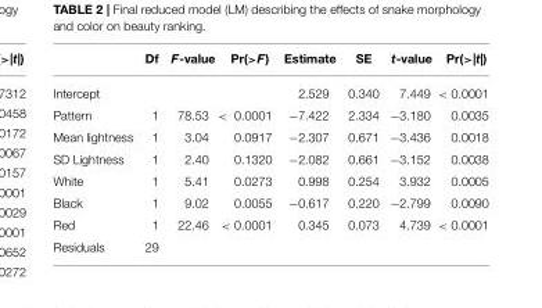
<table><thead><tr><td></td><td>Df</td><td>F-value</td><td>Pr(&gt;F)</td><td>Estimate</td><td>SE</td><td>t-value</td><td>Pr(&gt;|t|)</td></tr></thead><tbody><tr><td>Intercept</td><td></td><td></td><td></td><td>2.529</td><td>0.340</td><td>7.449</td><td>&lt; 0.0001</td></tr><tr><td>Pattern</td><td>1</td><td>78.53</td><td>&lt; 0.0001</td><td>−7.422</td><td>2.334</td><td>−3.180</td><td>0.0035</td></tr><tr><td>Mean lightness</td><td>1</td><td>3.04</td><td>0.0917</td><td>−2.307</td><td>0.671</td><td>−3.436</td><td>0.0018</td></tr><tr><td>SD Lightness</td><td>1</td><td>2.40</td><td>0.1320</td><td>−2.082</td><td>0.661</td><td>−3.152</td><td>0.0038</td></tr><tr><td>White</td><td>1</td><td>5.41</td><td>0.0273</td><td>0.998</td><td>0.254</td><td>3.932</td><td>0.0005</td></tr><tr><td>Black</td><td>1</td><td>9.02</td><td>0.0055</td><td>−0.617</td><td>0.220</td><td>−2.799</td><td>0.0090</td></tr><tr><td>Red</td><td>1</td><td>22.46</td><td>&lt; 0.0001</td><td>0.345</td><td>0.073</td><td>4.739</td><td>&lt; 0.0001</td></tr><tr><td>Residuals</td><td>29</td><td></td><td></td><td></td><td></td><td></td><td></td></tr></tbody></table>